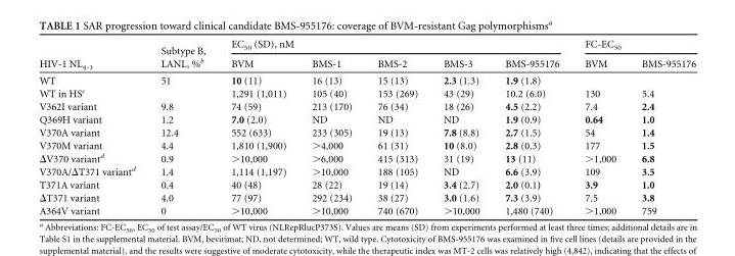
<table><thead><tr><td rowspan="2">HIV-1 NL<sub>4-3</sub></td><td rowspan="2">Subtype B, LANL, %<sup>b</sup></td><td colspan="5">EC<sub>50</sub> (SD), nM</td><td colspan="2">FC-EC<sub>50</sub></td></tr><tr><td>BVM</td><td>BMS-1</td><td>BMS-2</td><td>BMS-3</td><td>BMS-955176</td><td>BVM</td><td>BMS-955176</td></tr></thead><tbody><tr><td>WT</td><td>51</td><td>10 (11)</td><td>16 (13)</td><td>15 (13)</td><td>2.3 (1.3)</td><td>1.9 (1.8)</td><td></td><td></td></tr><tr><td>WT in HS<sup>c</sup></td><td></td><td>1,291 (1,011)</td><td>105 (40)</td><td>153 (269)</td><td>43 (29)</td><td>10.2 (6.0)</td><td>130</td><td>5.4</td></tr><tr><td>V362I variant</td><td>9.8</td><td>74 (59)</td><td>213 (170)</td><td>76 (34)</td><td>18 (26)</td><td>4.5 (2.2)</td><td>7.4</td><td>2.4</td></tr><tr><td>Q369H variant</td><td>1.2</td><td>7.0 (2.0)</td><td>ND</td><td>ND</td><td>ND</td><td>1.9 (0.9)</td><td>0.64</td><td>1.0</td></tr><tr><td>V370A variant</td><td>12.4</td><td>552 (633)</td><td>233 (305)</td><td>19 (13)</td><td>7.8 (8.8)</td><td>2.7 (1.5)</td><td>54</td><td>1.4</td></tr><tr><td>V370M variant</td><td>4.4</td><td>1,810 (1,900)</td><td>&gt;4,000</td><td>61 (31)</td><td>10 (8.0)</td><td>2.8 (0.3)</td><td>177</td><td>1.5</td></tr><tr><td>ΔV370 variant<sup>d</sup></td><td>0.9</td><td>&gt;10,000</td><td>&gt;6,000</td><td>415 (313)</td><td>31 (19)</td><td>13 (11)</td><td>&gt;1,000</td><td>6.8</td></tr><tr><td>V370A/ΔT371 variant<sup>d</sup></td><td>1.4</td><td>1,114 (1,197)</td><td>&gt;10,000</td><td>188 (105)</td><td>ND</td><td>6.6 (3.9)</td><td>109</td><td>3.5</td></tr><tr><td>T371A variant</td><td>0.4</td><td>40 (48)</td><td>28 (22)</td><td>19 (14)</td><td>3.4 (2.7)</td><td>2.0 (0.1)</td><td>3.9</td><td>1.0</td></tr><tr><td>ΔT371 variant</td><td>4.0</td><td>77 (97)</td><td>292 (234)</td><td>38 (27)</td><td>3.0 (1.6)</td><td>7.3 (3.9)</td><td>7.5</td><td>3.8</td></tr><tr><td>A364V variant</td><td>0</td><td>&gt;10,000</td><td>&gt;10,000</td><td>740 (670)</td><td>&gt;10,000</td><td>1,480 (740)</td><td>&gt;1,000</td><td>759</td></tr></tbody></table>